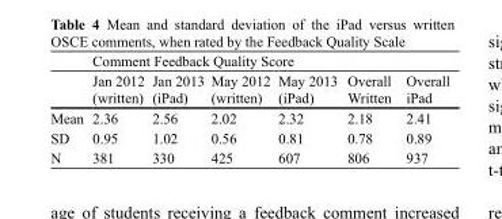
<table><thead><tr><td rowspan="2"></td><td colspan="6">Comment Feedback Quality Score</td></tr><tr><td>Jan 2012 (written)</td><td>Jan 2013 (iPad)</td><td>May 2012 (written)</td><td>May 2013 (iPad)</td><td>Overall Written</td><td>Overall iPad</td></tr></thead><tbody><tr><td>Mean</td><td>2.36</td><td>2.56</td><td>2.02</td><td>2.32</td><td>2.18</td><td>2.41</td></tr><tr><td>SD</td><td>0.95</td><td>1.02</td><td>0.56</td><td>0.81</td><td>0.78</td><td>0.89</td></tr><tr><td>N</td><td>381</td><td>330</td><td>425</td><td>607</td><td>806</td><td>937</td></tr></tbody></table>